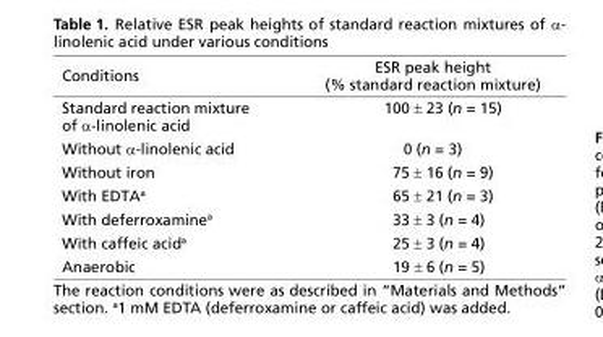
<table><thead><tr><td>Conditions</td><td>ESR peak height (% standard reaction mixture)</td></tr></thead><tbody><tr><td>Standard reaction mixture of α-linolenic acid</td><td>100 ± 23 (n = 15)</td></tr><tr><td>Without α-linolenic acid</td><td>0 (n = 3)</td></tr><tr><td>Without iron</td><td>75 ± 16 (n = 9)</td></tr><tr><td>With EDTA<sup>a</sup></td><td>65 ± 21 (n = 3)</td></tr><tr><td>With deferroxamine<sup>a</sup></td><td>33 ± 3 (n = 4)</td></tr><tr><td>With caffeic acid<sup>a</sup></td><td>25 ± 3 (n = 4)</td></tr><tr><td>Anaerobic</td><td>19 ± 6 (n = 5)</td></tr></tbody></table>